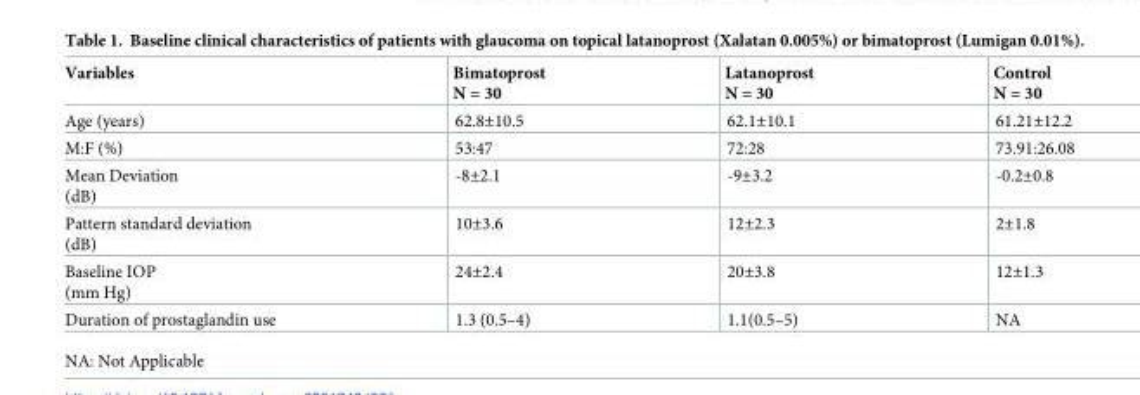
<table><thead><tr><td>Variables</td><td>Bimatoprost N = 30</td><td>Latanoprost N = 30</td><td>Control N = 30</td></tr></thead><tbody><tr><td>Age (years)</td><td>62.8±10.5</td><td>62.1±10.1</td><td>61.21±12.2</td></tr><tr><td>M:F (%)</td><td>53:47</td><td>72:28</td><td>73.91:26.08</td></tr><tr><td>Mean Deviation (dB)</td><td>-8±2.1</td><td>-9±3.2</td><td>-0.2±0.8</td></tr><tr><td>Pattern standard deviation (dB)</td><td>10±3.6</td><td>12±2.3</td><td>2±1.8</td></tr><tr><td>Baseline IOP (mm Hg)</td><td>24±2.4</td><td>20±3.8</td><td>12±1.3</td></tr><tr><td>Duration of prostaglandin use</td><td>1.3 (0.5–4)</td><td>1.1(0.5–5)</td><td>NA</td></tr></tbody></table>